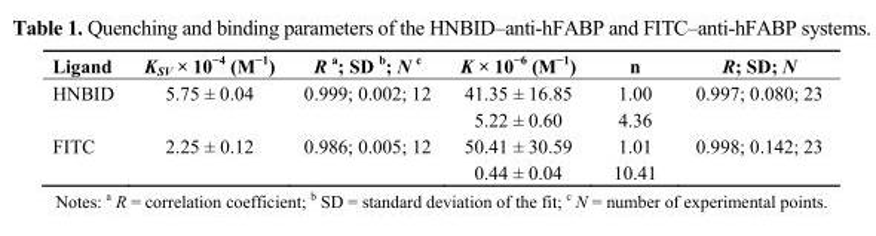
<table><thead><tr><td>Ligand</td><td>K<sub>SV</sub> × 10<sup>−4</sup> (M<sup>−1</sup>)</td><td>R <sup>a</sup>; SD b; N <sup>c</sup></td><td>K × 10<sup>−6</sup> (M<sup>−1</sup>)</td><td>n</td><td>R; SD; N</td></tr></thead><tbody><tr><td>HNBID</td><td>5.75 ± 0.04</td><td>0.999; 0.002; 12</td><td>41.35 ± 16.85 5.22 ± 0.60</td><td>1.00 4.36</td><td>0.997; 0.080; 23</td></tr><tr><td>FITC</td><td>2.25 ± 0.12</td><td>0.986; 0.005; 12</td><td>50.41 ± 30.59 0.44 ± 0.04</td><td>1.01 10.41</td><td>0.998; 0.142; 23</td></tr></tbody></table>